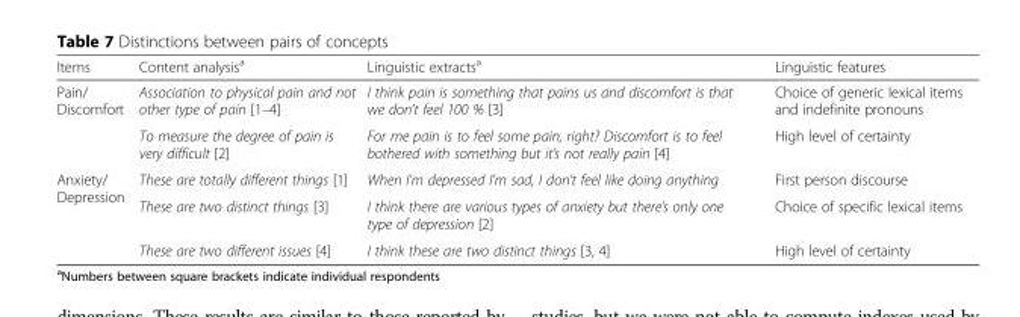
<table><thead><tr><td>Items</td><td>Content analysis<sup>a</sup></td><td>Linguistic extracts<sup>a</sup></td><td>Linguistic features</td></tr></thead><tbody><tr><td rowspan="2">Pain/ Discomfort</td><td>Association to physical pain and not other type of pain [1–4]</td><td>I think pain is something that pains us and discomfort is that we don’t feel 100 % [3]</td><td>Choice of generic lexical items and indefinite pronouns</td></tr><tr><td>To measure the degree of pain is very difficult [2]</td><td>For me pain is to feel some pain, right? Discomfort is to feel bothered with something but it’s not really pain [4]</td><td>High level of certainty</td></tr><tr><td rowspan="3">Anxiety/ Depression</td><td>These are totally different things [1]</td><td>When I’m depressed I’m sad, I don’t feel like doing anything</td><td>First person discourse</td></tr><tr><td>These are two distinct things [3]</td><td>I think there are various types of anxiety but there’s only one type of depression [2]</td><td>Choice of specific lexical items</td></tr><tr><td>These are two different issues [4]</td><td>I think these are two distinct things [3, 4]</td><td>High level of certainty</td></tr></tbody></table>